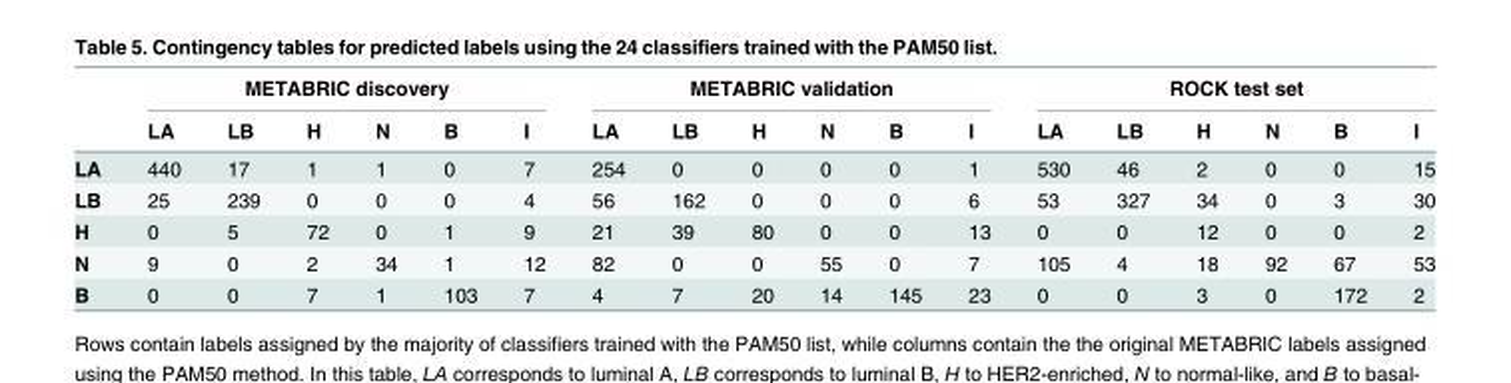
<table><thead><tr><td rowspan="2"></td><td colspan="6">METABRIC discovery</td><td colspan="6">METABRIC validation</td><td colspan="6">ROCK test set</td></tr><tr><td>LA</td><td>LB</td><td>H</td><td>N</td><td>B</td><td>I</td><td>LA</td><td>LB</td><td>H</td><td>N</td><td>B</td><td>I</td><td>LA</td><td>LB</td><td>H</td><td>N</td><td>B</td><td>I</td></tr></thead><tbody><tr><td>LA</td><td>440</td><td>17</td><td>1</td><td>1</td><td>0</td><td>7</td><td>254</td><td>0</td><td>0</td><td>0</td><td>0</td><td>1</td><td>530</td><td>46</td><td>2</td><td>0</td><td>0</td><td>15</td></tr><tr><td>LB</td><td>25</td><td>239</td><td>0</td><td>0</td><td>0</td><td>4</td><td>56</td><td>162</td><td>0</td><td>0</td><td>0</td><td>6</td><td>53</td><td>327</td><td>34</td><td>0</td><td>3</td><td>30</td></tr><tr><td>H</td><td>0</td><td>5</td><td>72</td><td>0</td><td>1</td><td>9</td><td>21</td><td>39</td><td>80</td><td>0</td><td>0</td><td>13</td><td>0</td><td>0</td><td>12</td><td>0</td><td>0</td><td>2</td></tr><tr><td>N</td><td>9</td><td>0</td><td>2</td><td>34</td><td>1</td><td>12</td><td>82</td><td>0</td><td>0</td><td>55</td><td>0</td><td>7</td><td>105</td><td>4</td><td>18</td><td>92</td><td>67</td><td>53</td></tr><tr><td>B</td><td>0</td><td>0</td><td>7</td><td>1</td><td>103</td><td>7</td><td>4</td><td>7</td><td>20</td><td>14</td><td>145</td><td>23</td><td>0</td><td>0</td><td>3</td><td>0</td><td>172</td><td>2</td></tr></tbody></table>